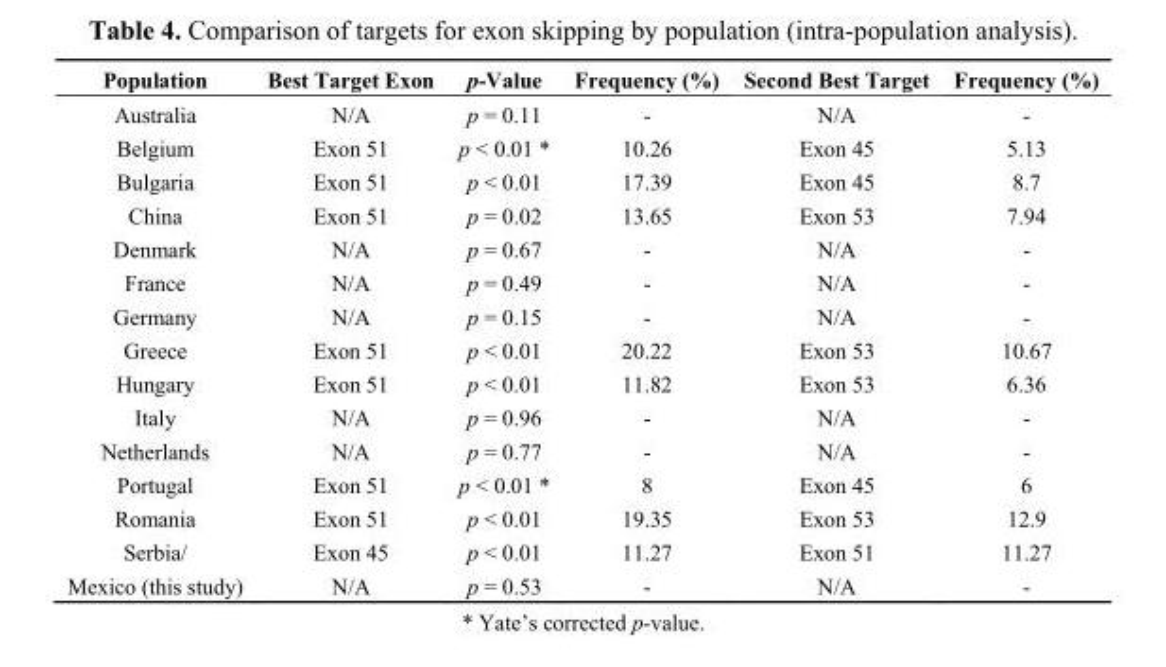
<table><thead><tr><td>Population</td><td>Best Target Exon</td><td>p-Value</td><td>Frequency (%)</td><td>Second Best Target</td><td>Frequency (%)</td></tr></thead><tbody><tr><td>Australia</td><td>N/A</td><td>p = 0.11</td><td>-</td><td>N/A</td><td>-</td></tr><tr><td>Belgium</td><td>Exon 51</td><td>p &lt; 0.01 *</td><td>10.26</td><td>Exon 45</td><td>5.13</td></tr><tr><td>Bulgaria</td><td>Exon 51</td><td>p &lt; 0.01</td><td>17.39</td><td>Exon 45</td><td>8.7</td></tr><tr><td>China</td><td>Exon 51</td><td>p = 0.02</td><td>13.65</td><td>Exon 53</td><td>7.94</td></tr><tr><td>Denmark</td><td>N/A</td><td>p = 0.67</td><td>-</td><td>N/A</td><td>-</td></tr><tr><td>France</td><td>N/A</td><td>p = 0.49</td><td>-</td><td>N/A</td><td>-</td></tr><tr><td>Germany</td><td>N/A</td><td>p = 0.15</td><td>-</td><td>N/A</td><td>-</td></tr><tr><td>Greece</td><td>Exon 51</td><td>p &lt; 0.01</td><td>20.22</td><td>Exon 53</td><td>10.67</td></tr><tr><td>Hungary</td><td>Exon 51</td><td>p &lt; 0.01</td><td>11.82</td><td>Exon 53</td><td>6.36</td></tr><tr><td>Italy</td><td>N/A</td><td>p = 0.96</td><td>-</td><td>N/A</td><td>-</td></tr><tr><td>Netherlands</td><td>N/A</td><td>p = 0.77</td><td>-</td><td>N/A</td><td>-</td></tr><tr><td>Portugal</td><td>Exon 51</td><td>p &lt; 0.01 *</td><td>8</td><td>Exon 45</td><td>6</td></tr><tr><td>Romania</td><td>Exon 51</td><td>p &lt; 0.01</td><td>19.35</td><td>Exon 53</td><td>12.9</td></tr><tr><td>Serbia/</td><td>Exon 45</td><td>p &lt; 0.01</td><td>11.27</td><td>Exon 51</td><td>11.27</td></tr><tr><td>Mexico (this study)</td><td>N/A</td><td>p = 0.53</td><td>-</td><td>N/A</td><td>-</td></tr></tbody></table>